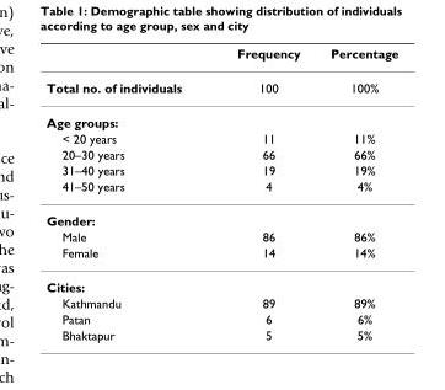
<table><thead><tr><td></td><td>Frequency</td><td>Percentage</td></tr></thead><tbody><tr><td>Total no. of individuals</td><td>100</td><td>100%</td></tr><tr><td colspan="3">Age groups:</td></tr><tr><td>&lt; 20 years</td><td>11</td><td>11%</td></tr><tr><td>20–30 years</td><td>66</td><td>66%</td></tr><tr><td>31–40 years</td><td>19</td><td>19%</td></tr><tr><td>41–50 years</td><td>4</td><td>4%</td></tr><tr><td colspan="3">Gender:</td></tr><tr><td>Male</td><td>86</td><td>86%</td></tr><tr><td>Female</td><td>14</td><td>14%</td></tr><tr><td colspan="3">Cities:</td></tr><tr><td>Kathmandu</td><td>89</td><td>89%</td></tr><tr><td>Patan</td><td>6</td><td>6%</td></tr><tr><td>Bhaktapur</td><td>5</td><td>5%</td></tr></tbody></table>